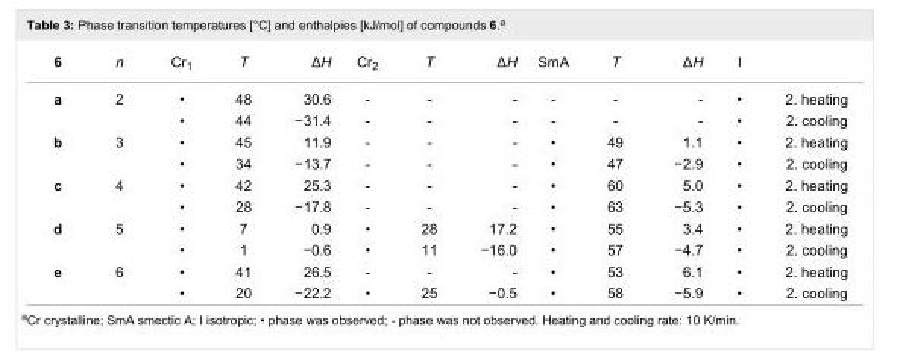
<table><tbody><tr><td>6</td><td>n</td><td>Cr<sub>1</sub></td><td>T</td><td>ΔH</td><td>Cr<sub>2</sub></td><td>T</td><td>ΔH</td><td>SmA</td><td>T</td><td>ΔH</td><td>I</td><td></td></tr><tr><td rowspan="2">a</td><td>2</td><td>•</td><td>48</td><td>30.6</td><td>-</td><td>-</td><td>-</td><td>-</td><td>-</td><td>-</td><td>•</td><td>2. heating</td></tr><tr><td></td><td>•</td><td>44</td><td>−31.4</td><td>-</td><td>-</td><td>-</td><td>-</td><td>-</td><td>-</td><td>•</td><td>2. cooling</td></tr><tr><td rowspan="2">b</td><td>3</td><td>•</td><td>45</td><td>11.9</td><td>-</td><td>-</td><td>-</td><td>•</td><td>49</td><td>1.1</td><td>•</td><td>2. heating</td></tr><tr><td></td><td>•</td><td>34</td><td>−13.7</td><td>-</td><td>-</td><td>-</td><td>•</td><td>47</td><td>−2.9</td><td>•</td><td>2. cooling</td></tr><tr><td rowspan="2">c</td><td>4</td><td>•</td><td>42</td><td>25.3</td><td>-</td><td>-</td><td>-</td><td>•</td><td>60</td><td>5.0</td><td>•</td><td>2. heating</td></tr><tr><td></td><td>•</td><td>28</td><td>−17.8</td><td>-</td><td>-</td><td>-</td><td>•</td><td>63</td><td>−5.3</td><td>•</td><td>2. cooling</td></tr><tr><td rowspan="2">d</td><td>5</td><td>•</td><td>7</td><td>0.9</td><td>•</td><td>28</td><td>17.2</td><td>•</td><td>55</td><td>3.4</td><td>•</td><td>2. heating</td></tr><tr><td></td><td>•</td><td>1</td><td>−0.6</td><td>•</td><td>11</td><td>−16.0</td><td>•</td><td>57</td><td>−4.7</td><td>•</td><td>2. cooling</td></tr><tr><td rowspan="2">e</td><td>6</td><td>•</td><td>41</td><td>26.5</td><td>-</td><td>-</td><td>-</td><td>•</td><td>53</td><td>6.1</td><td>•</td><td>2. heating</td></tr><tr><td></td><td>•</td><td>20</td><td>−22.2</td><td>•</td><td>25</td><td>−0.5</td><td>•</td><td>58</td><td>−5.9</td><td>•</td><td>2. cooling</td></tr></tbody></table>